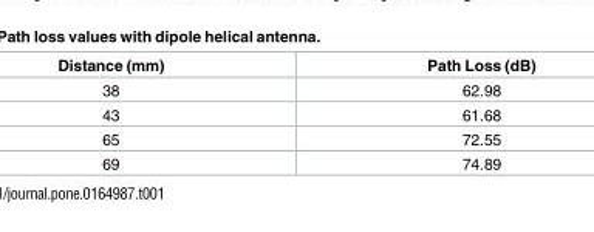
<table><thead><tr><td>Distance (mm)</td><td>Path Loss (dB)</td></tr></thead><tbody><tr><td>38</td><td>62.98</td></tr><tr><td>43</td><td>61.68</td></tr><tr><td>65</td><td>72.55</td></tr><tr><td>69</td><td>74.89</td></tr></tbody></table>